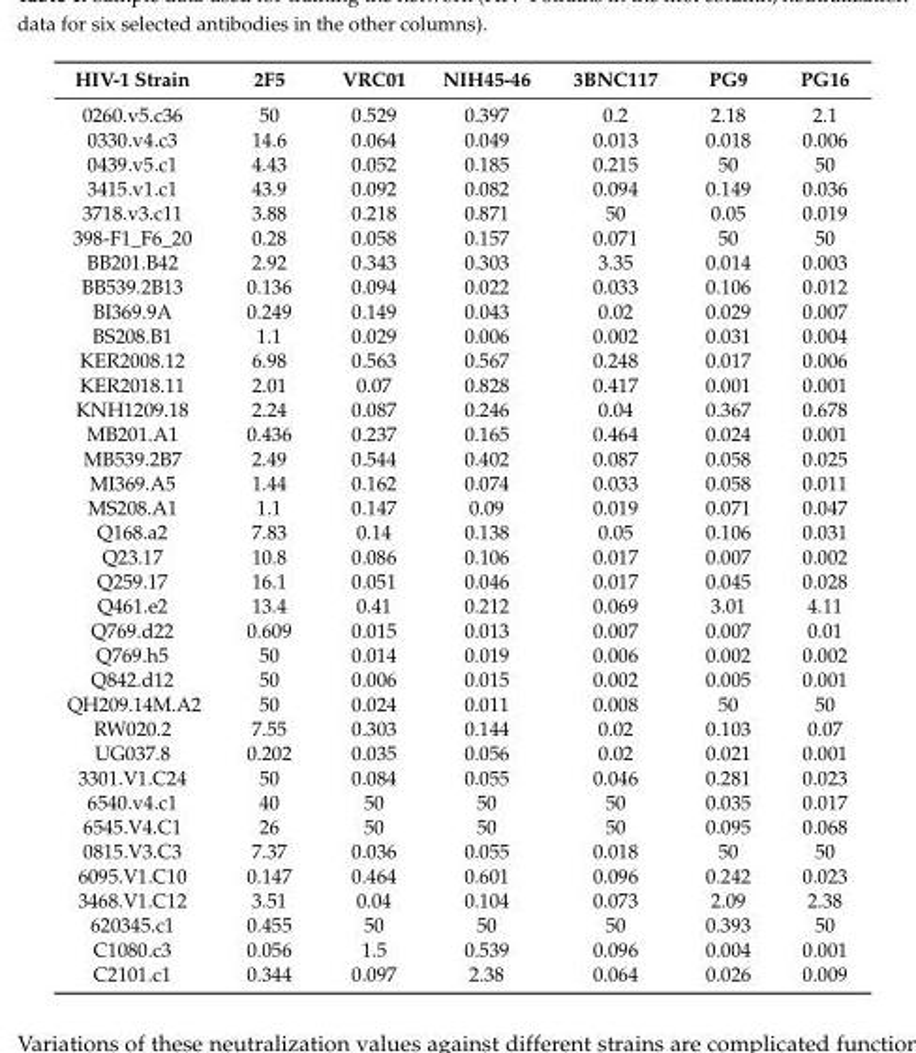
<table><thead><tr><td>HIV-1 Strain</td><td>2F5</td><td>VRC01</td><td>NIH45-46</td><td>3BNC117</td><td>PG9</td><td>PG16</td></tr></thead><tbody><tr><td>0260.v5.c36</td><td>50</td><td>0.529</td><td>0.397</td><td>0.2</td><td>2.18</td><td>2.1</td></tr><tr><td>0330.v4.c3</td><td>14.6</td><td>0.064</td><td>0.049</td><td>0.013</td><td>0.018</td><td>0.006</td></tr><tr><td>0439.v5.c1</td><td>4.43</td><td>0.052</td><td>0.185</td><td>0.215</td><td>50</td><td>50</td></tr><tr><td>3415.v1.c1</td><td>43.9</td><td>0.092</td><td>0.082</td><td>0.094</td><td>0.149</td><td>0.036</td></tr><tr><td>3718.v3.c11</td><td>3.88</td><td>0.218</td><td>0.871</td><td>50</td><td>0.05</td><td>0.019</td></tr><tr><td>398-F1_F6_20</td><td>0.28</td><td>0.058</td><td>0.157</td><td>0.071</td><td>50</td><td>50</td></tr><tr><td>BB201.B42</td><td>2.92</td><td>0.343</td><td>0.303</td><td>3.35</td><td>0.014</td><td>0.003</td></tr><tr><td>BB539.2B13</td><td>0.136</td><td>0.094</td><td>0.022</td><td>0.033</td><td>0.106</td><td>0.012</td></tr><tr><td>BI369.9A</td><td>0.249</td><td>0.149</td><td>0.043</td><td>0.02</td><td>0.029</td><td>0.007</td></tr><tr><td>BS208.B1</td><td>1.1</td><td>0.029</td><td>0.006</td><td>0.002</td><td>0.031</td><td>0.004</td></tr><tr><td>KER2008.12</td><td>6.98</td><td>0.563</td><td>0.567</td><td>0.248</td><td>0.017</td><td>0.006</td></tr><tr><td>KER2018.11</td><td>2.01</td><td>0.07</td><td>0.828</td><td>0.417</td><td>0.001</td><td>0.001</td></tr><tr><td>KNH1209.18</td><td>2.24</td><td>0.087</td><td>0.246</td><td>0.04</td><td>0.367</td><td>0.678</td></tr><tr><td>MB201.A1</td><td>0.436</td><td>0.237</td><td>0.165</td><td>0.464</td><td>0.024</td><td>0.001</td></tr><tr><td>MB539.2B7</td><td>2.49</td><td>0.544</td><td>0.402</td><td>0.087</td><td>0.058</td><td>0.025</td></tr><tr><td>MI369.A5</td><td>1.44</td><td>0.162</td><td>0.074</td><td>0.033</td><td>0.058</td><td>0.011</td></tr><tr><td>MS208.A1</td><td>1.1</td><td>0.147</td><td>0.09</td><td>0.019</td><td>0.071</td><td>0.047</td></tr><tr><td>Q168.a2</td><td>7.83</td><td>0.14</td><td>0.138</td><td>0.05</td><td>0.106</td><td>0.031</td></tr><tr><td>Q23.17</td><td>10.8</td><td>0.086</td><td>0.106</td><td>0.017</td><td>0.007</td><td>0.002</td></tr><tr><td>Q259.17</td><td>16.1</td><td>0.051</td><td>0.046</td><td>0.017</td><td>0.045</td><td>0.028</td></tr><tr><td>Q461.e2</td><td>13.4</td><td>0.41</td><td>0.212</td><td>0.069</td><td>3.01</td><td>4.11</td></tr><tr><td>Q769.d22</td><td>0.609</td><td>0.015</td><td>0.013</td><td>0.007</td><td>0.007</td><td>0.01</td></tr><tr><td>Q769.h5</td><td>50</td><td>0.014</td><td>0.019</td><td>0.006</td><td>0.002</td><td>0.002</td></tr><tr><td>Q842.d12</td><td>50</td><td>0.006</td><td>0.015</td><td>0.002</td><td>0.005</td><td>0.001</td></tr><tr><td>QH209.14M.A2</td><td>50</td><td>0.024</td><td>0.011</td><td>0.008</td><td>50</td><td>50</td></tr><tr><td>RW020.2</td><td>7.55</td><td>0.303</td><td>0.144</td><td>0.02</td><td>0.103</td><td>0.07</td></tr><tr><td>UG037.8</td><td>0.202</td><td>0.035</td><td>0.056</td><td>0.02</td><td>0.021</td><td>0.001</td></tr><tr><td>3301.V1.C24</td><td>50</td><td>0.084</td><td>0.055</td><td>0.046</td><td>0.281</td><td>0.023</td></tr><tr><td>6540.v4.c1</td><td>40</td><td>50</td><td>50</td><td>50</td><td>0.035</td><td>0.017</td></tr><tr><td>6545.V4.C1</td><td>26</td><td>50</td><td>50</td><td>50</td><td>0.095</td><td>0.068</td></tr><tr><td>0815.V3.C3</td><td>7.37</td><td>0.036</td><td>0.055</td><td>0.018</td><td>50</td><td>50</td></tr><tr><td>6095.V1.C10</td><td>0.147</td><td>0.464</td><td>0.601</td><td>0.096</td><td>0.242</td><td>0.023</td></tr><tr><td>3468.V1.C12</td><td>3.51</td><td>0.04</td><td>0.104</td><td>0.073</td><td>2.09</td><td>2.38</td></tr><tr><td>620345.c1</td><td>0.455</td><td>50</td><td>50</td><td>50</td><td>0.393</td><td>50</td></tr><tr><td>C1080.c3</td><td>0.056</td><td>1.5</td><td>0.539</td><td>0.096</td><td>0.004</td><td>0.001</td></tr><tr><td>C2101.c1</td><td>0.344</td><td>0.097</td><td>2.38</td><td>0.064</td><td>0.026</td><td>0.009</td></tr></tbody></table>